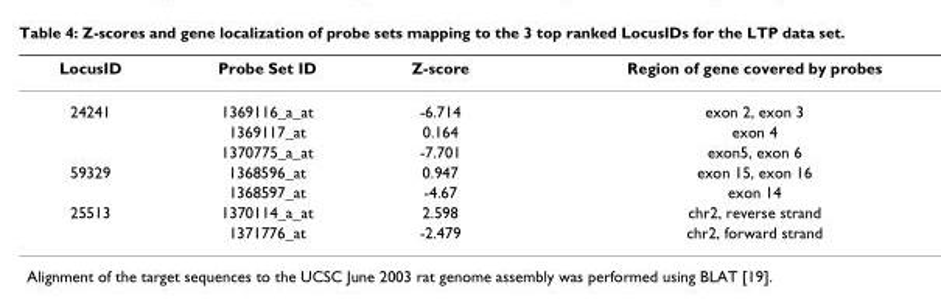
<table><thead><tr><td>LocusID</td><td>Probe Set ID</td><td>Z-score</td><td>Region of gene covered by probes</td></tr></thead><tbody><tr><td rowspan="3">24241</td><td>1369116_a_at</td><td>-6.714</td><td>exon 2, exon 3</td></tr><tr><td>1369117_at</td><td>0.164</td><td>exon 4</td></tr><tr><td>1370775_a_at</td><td>-7.701</td><td>exon5, exon 6</td></tr><tr><td rowspan="2">59329</td><td>1368596_at</td><td>0.947</td><td>exon 15, exon 16</td></tr><tr><td>1368597_at</td><td>-4.67</td><td>exon 14</td></tr><tr><td rowspan="2">25513</td><td>1370114_a_at</td><td>2.598</td><td>chr2, reverse strand</td></tr><tr><td>1371776_at</td><td>-2.479</td><td>chr2, forward strand</td></tr></tbody></table>